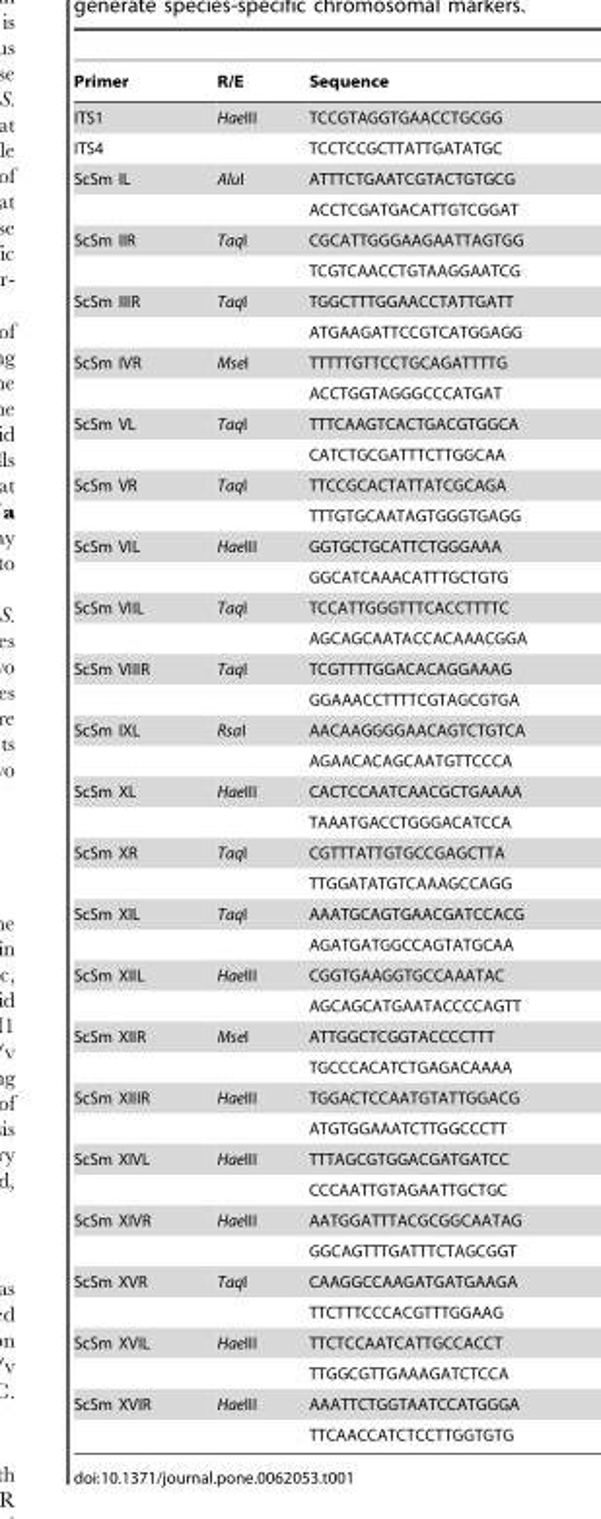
<table><thead><tr><td>Primer</td><td>R/E</td><td>Sequence</td></tr></thead><tbody><tr><td>ITS1</td><td>HaeIII</td><td>TCCGTAGGTGAACCTGCGG</td></tr><tr><td>ITS4</td><td></td><td>TCCTCCGCTTATTGATATGC</td></tr><tr><td rowspan="2">ScSm IL</td><td>AluI</td><td>ATTTCTGAATCGTACTGTGCG</td></tr><tr><td></td><td>ACCTCGATGACATTGTCGGAT</td></tr><tr><td rowspan="2">ScSm IIR</td><td>TaqI</td><td>CGCATTGGGAAGAATTAGTGG</td></tr><tr><td></td><td>TCGTCAACCTGTAAGGAATCG</td></tr><tr><td rowspan="2">ScSm IIIR</td><td>TaqI</td><td>TGGCTTTGGAACCTATTGATT</td></tr><tr><td></td><td>ATGAAGATTCCGTCATGGAGG</td></tr><tr><td rowspan="2">ScSm IVR</td><td>MseI</td><td>TTTTTGTTCCTGCAGATTTTG</td></tr><tr><td></td><td>ACCTGGTAGGGCCCATGAT</td></tr><tr><td rowspan="2">ScSm VL</td><td>TaqI</td><td>TTTCAAGTCACTGACGTGGCA</td></tr><tr><td></td><td>CATCTGCGATTTCTTGGCAA</td></tr><tr><td rowspan="2">ScSm VR</td><td>TaqI</td><td>TTCCGCACTATTATCGCAGA</td></tr><tr><td></td><td>TTTGTGCAATAGTGGGTGAGG</td></tr><tr><td rowspan="2">ScSm VIL</td><td>HaeIII</td><td>GGTGCTGCATTCTGGGAAA</td></tr><tr><td></td><td>GGCATCAAACATTTGCTGTG</td></tr><tr><td rowspan="2">ScSm VIIL</td><td>TaqI</td><td>TCCATTGGGTTTCACCTTTTC</td></tr><tr><td></td><td>AGCAGCAATACCACAAACGGA</td></tr><tr><td rowspan="2">ScSm VIIIR</td><td>TaqI</td><td>TCGTTTTGGACACAGGAAAG</td></tr><tr><td></td><td>GGAAACCTTTTCGTAGCGTGA</td></tr><tr><td rowspan="2">ScSm IXL</td><td>RsaI</td><td>AACAAGGGGAACAGTCTGTCA</td></tr><tr><td></td><td>AGAACACAGCAATGTTCCCA</td></tr><tr><td rowspan="2">ScSm XL</td><td>HaeIII</td><td>CACTCCAATCAACGCTGAAAA</td></tr><tr><td></td><td>TAAATGACCTGGGACATCCA</td></tr><tr><td rowspan="2">ScSm XR</td><td>TaqI</td><td>CGTTTATTGTGCCGAGCTTA</td></tr><tr><td></td><td>TTGGATATGTCAAAGCCAGG</td></tr><tr><td rowspan="2">ScSm XIL</td><td>TaqI</td><td>AAATGCAGTGAACGATCCACG</td></tr><tr><td></td><td>AGATGATGGCCAGTATGCAA</td></tr><tr><td rowspan="2">ScSm XIIL</td><td>HaeIII</td><td>CGGTGAAGGTGCCAAATAC</td></tr><tr><td></td><td>AGCAGCATGAATACCCCAGTT</td></tr><tr><td rowspan="2">ScSm XIIR</td><td>MseI</td><td>ATTGGCTCGGTACCCCTTT</td></tr><tr><td></td><td>TGCCCACATCTGAGACAAAA</td></tr><tr><td rowspan="2">ScSm XIIIR</td><td>HaeIII</td><td>TGGACTCCAATGTATTGGACG</td></tr><tr><td></td><td>ATGTGGAAATCTTGGCCCTT</td></tr><tr><td rowspan="2">ScSm XIVL</td><td>HaeIII</td><td>TTTAGCGTGGACGATGATCC</td></tr><tr><td></td><td>CCCAATTGTAGAATTGCTGC</td></tr><tr><td rowspan="2">ScSm XIVR</td><td>HaeIII</td><td>AATGGATTTACGCGGCAATAG</td></tr><tr><td></td><td>GGCAGTTTGATTTCTAGCGGT</td></tr><tr><td rowspan="2">ScSm XVR</td><td>TaqI</td><td>CAAGGCCAAGATGATGAAGA</td></tr><tr><td></td><td>TTCTTTCCCACGTTTGGAAG</td></tr><tr><td rowspan="2">ScSm XVIL</td><td>HaeIII</td><td>TTCTCCAATCATTGCCACCT</td></tr><tr><td></td><td>TTGGCGTTGAAAGATCTCCA</td></tr><tr><td rowspan="2">ScSm XVIR</td><td>HaeIII</td><td>AAATTCTGGTAATCCATGGGA</td></tr><tr><td></td><td>TTCAACCATCTCCTTGGTGTG</td></tr></tbody></table>